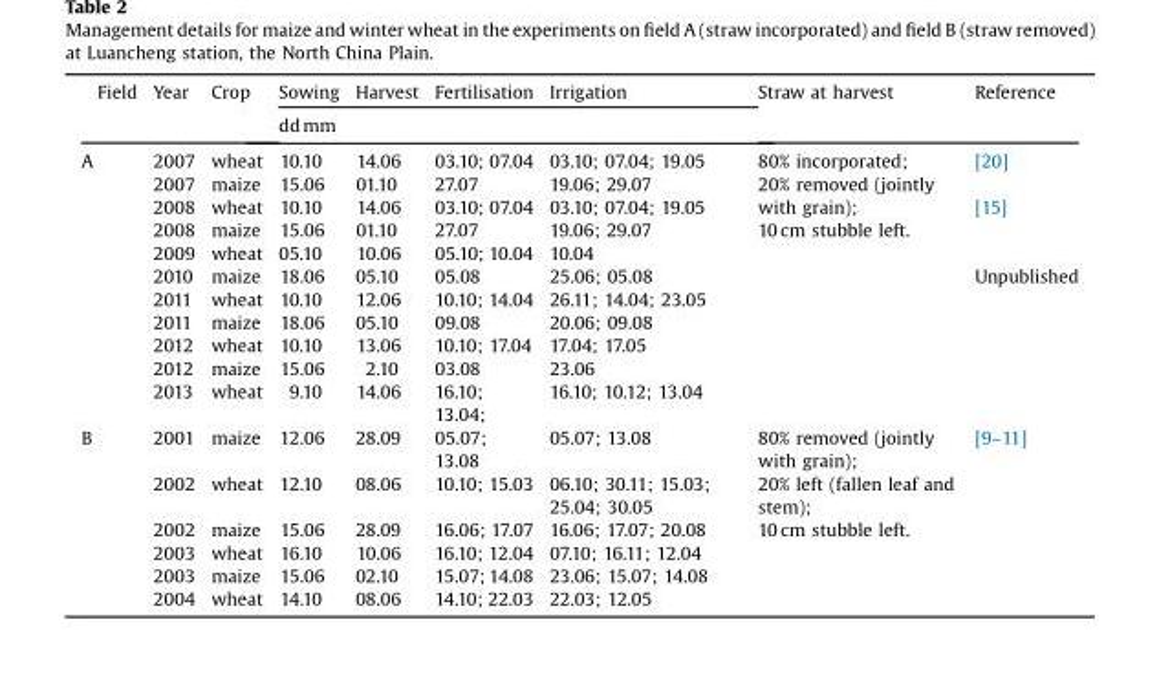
<table><thead><tr><td rowspan="2">Field</td><td rowspan="2">Year</td><td rowspan="2">Crop</td><td>Sowing</td><td>Harvest</td><td>Fertilisation</td><td>Irrigation</td><td rowspan="2">Straw at harvest</td><td rowspan="2">Reference</td></tr><tr><td colspan="4">dd mm</td></tr></thead><tbody><tr><td rowspan="11">A</td><td>2007</td><td>wheat</td><td>10.10</td><td>14.06</td><td>03.10; 07.04</td><td>03.10; 07.04; 19.05</td><td rowspan="11">80% incorporated; 20% removed (jointly with grain); 10 cm stubble left.</td><td rowspan="2">[20]</td></tr><tr><td>2007</td><td>maize</td><td>15.06</td><td>01.10</td><td>27.07</td><td>19.06; 29.07</td></tr><tr><td>2008</td><td>wheat</td><td>10.10</td><td>14.06</td><td>03.10; 07.04</td><td>03.10; 07.04; 19.05</td><td rowspan="3">[15]</td></tr><tr><td>2008</td><td>maize</td><td>15.06</td><td>01.10</td><td>27.07</td><td>19.06; 29.07</td></tr><tr><td>2009</td><td>wheat</td><td>05.10</td><td>10.06</td><td>05.10; 10.04</td><td>10.04</td></tr><tr><td>2010</td><td>maize</td><td>18.06</td><td>05.10</td><td>05.08</td><td>25.06; 05.08</td><td rowspan="6">Unpublished</td></tr><tr><td>2011</td><td>wheat</td><td>10.10</td><td>12.06</td><td>10.10; 14.04</td><td>26.11; 14.04; 23.05</td></tr><tr><td>2011</td><td>maize</td><td>18.06</td><td>05.10</td><td>09.08</td><td>20.06; 09.08</td></tr><tr><td>2012</td><td>wheat</td><td>10.10</td><td>13.06</td><td>10.10; 17.04</td><td>17.04; 17.05</td></tr><tr><td>2012</td><td>maize</td><td>15.06</td><td>2.10</td><td>03.08</td><td>23.06</td></tr><tr><td>2013</td><td>wheat</td><td>9.10</td><td>14.06</td><td>16.10; 13.04;</td><td>16.10; 10.12; 13.04</td></tr><tr><td rowspan="6">B</td><td>2001</td><td>maize</td><td>12.06</td><td>28.09</td><td>05.07; 13.08</td><td>05.07; 13.08</td><td rowspan="6">80% removed (jointly with grain); 20% left (fallen leaf and stem); 10 cm stubble left.</td><td rowspan="6">[9–11]</td></tr><tr><td>2002</td><td>wheat</td><td>12.10</td><td>08.06</td><td>10.10; 15.03</td><td>06.10; 30.11; 15.03; 25.04; 30.05</td></tr><tr><td>2002</td><td>maize</td><td>15.06</td><td>28.09</td><td>16.06; 17.07</td><td>16.06; 17.07; 20.08</td></tr><tr><td>2003</td><td>wheat</td><td>16.10</td><td>10.06</td><td>16.10; 12.04</td><td>07.10; 16.11; 12.04</td></tr><tr><td>2003</td><td>maize</td><td>15.06</td><td>02.10</td><td>15.07; 14.08</td><td>23.06; 15.07; 14.08</td></tr><tr><td>2004</td><td>wheat</td><td>14.10</td><td>08.06</td><td>14.10; 22.03</td><td>22.03; 12.05</td></tr></tbody></table>